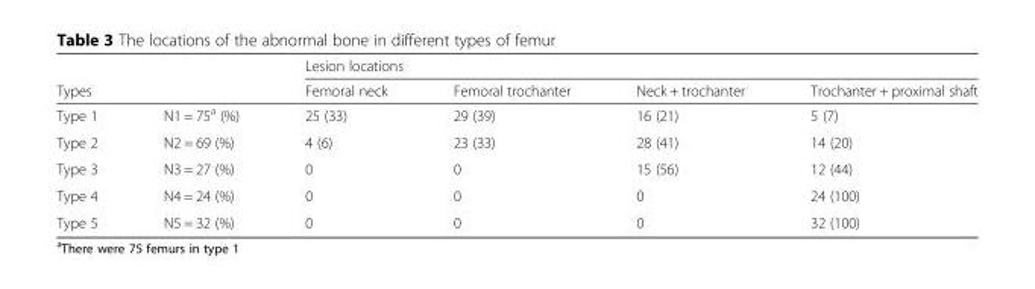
<table><thead><tr><td></td><td></td><td colspan="4">Lesion locations</td></tr><tr><td colspan="2">Types</td><td>Femoral neck</td><td>Femoral trochanter</td><td>Neck + trochanter</td><td>Trochanter + proximal shaft</td></tr></thead><tbody><tr><td>Type 1</td><td>N1 = 75<sup>a</sup> (%)</td><td>25 (33)</td><td>29 (39)</td><td>16 (21)</td><td>5 (7)</td></tr><tr><td>Type 2</td><td>N2 = 69 (%)</td><td>4 (6)</td><td>23 (33)</td><td>28 (41)</td><td>14 (20)</td></tr><tr><td>Type 3</td><td>N3 = 27 (%)</td><td>0</td><td>0</td><td>15 (56)</td><td>12 (44)</td></tr><tr><td>Type 4</td><td>N4 = 24 (%)</td><td>0</td><td>0</td><td>0</td><td>24 (100)</td></tr><tr><td>Type 5</td><td>N5 = 32 (%)</td><td>0</td><td>0</td><td>0</td><td>32 (100)</td></tr></tbody></table>